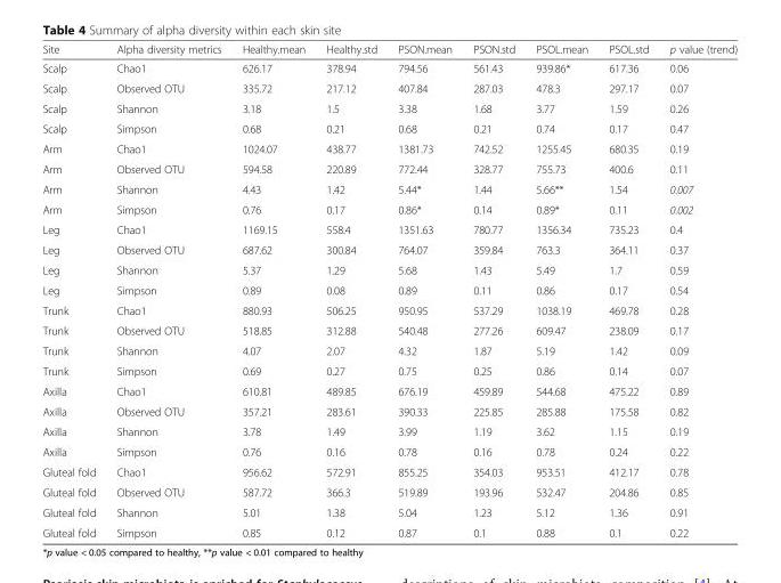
<table><thead><tr><td>Site</td><td>Alpha diversity metrics</td><td>Healthy.mean</td><td>Healthy.std</td><td>PSON.mean</td><td>PSON.std</td><td>PSOL.mean</td><td>PSOL.std</td><td>p value (trend)</td></tr></thead><tbody><tr><td>Scalp</td><td>Chao1</td><td>626.17</td><td>378.94</td><td>794.56</td><td>561.43</td><td>939.86*</td><td>617.36</td><td>0.06</td></tr><tr><td>Scalp</td><td>Observed OTU</td><td>335.72</td><td>217.12</td><td>407.84</td><td>287.03</td><td>478.3</td><td>297.17</td><td>0.07</td></tr><tr><td>Scalp</td><td>Shannon</td><td>3.18</td><td>1.5</td><td>3.38</td><td>1.68</td><td>3.77</td><td>1.59</td><td>0.26</td></tr><tr><td>Scalp</td><td>Simpson</td><td>0.68</td><td>0.21</td><td>0.68</td><td>0.21</td><td>0.74</td><td>0.17</td><td>0.47</td></tr><tr><td>Arm</td><td>Chao1</td><td>1024.07</td><td>438.77</td><td>1381.73</td><td>742.52</td><td>1255.45</td><td>680.35</td><td>0.19</td></tr><tr><td>Arm</td><td>Observed OTU</td><td>594.58</td><td>220.89</td><td>772.44</td><td>328.77</td><td>755.73</td><td>400.6</td><td>0.11</td></tr><tr><td>Arm</td><td>Shannon</td><td>4.43</td><td>1.42</td><td>5.44*</td><td>1.44</td><td>5.66**</td><td>1.54</td><td>0.007</td></tr><tr><td>Arm</td><td>Simpson</td><td>0.76</td><td>0.17</td><td>0.86*</td><td>0.14</td><td>0.89*</td><td>0.11</td><td>0.002</td></tr><tr><td>Leg</td><td>Chao1</td><td>1169.15</td><td>558.4</td><td>1351.63</td><td>780.77</td><td>1356.34</td><td>735.23</td><td>0.4</td></tr><tr><td>Leg</td><td>Observed OTU</td><td>687.62</td><td>300.84</td><td>764.07</td><td>359.84</td><td>763.3</td><td>364.11</td><td>0.37</td></tr><tr><td>Leg</td><td>Shannon</td><td>5.37</td><td>1.29</td><td>5.68</td><td>1.43</td><td>5.49</td><td>1.7</td><td>0.59</td></tr><tr><td>Leg</td><td>Simpson</td><td>0.89</td><td>0.08</td><td>0.89</td><td>0.11</td><td>0.86</td><td>0.17</td><td>0.54</td></tr><tr><td>Trunk</td><td>Chao1</td><td>880.93</td><td>506.25</td><td>950.95</td><td>537.29</td><td>1038.19</td><td>469.78</td><td>0.28</td></tr><tr><td>Trunk</td><td>Observed OTU</td><td>518.85</td><td>312.88</td><td>540.48</td><td>277.26</td><td>609.47</td><td>238.09</td><td>0.17</td></tr><tr><td>Trunk</td><td>Shannon</td><td>4.07</td><td>2.07</td><td>4.32</td><td>1.87</td><td>5.19</td><td>1.42</td><td>0.09</td></tr><tr><td>Trunk</td><td>Simpson</td><td>0.69</td><td>0.27</td><td>0.75</td><td>0.25</td><td>0.86</td><td>0.14</td><td>0.07</td></tr><tr><td>Axilla</td><td>Chao1</td><td>610.81</td><td>489.85</td><td>676.19</td><td>459.89</td><td>544.68</td><td>475.22</td><td>0.89</td></tr><tr><td>Axilla</td><td>Observed OTU</td><td>357.21</td><td>283.61</td><td>390.33</td><td>225.85</td><td>285.88</td><td>175.58</td><td>0.82</td></tr><tr><td>Axilla</td><td>Shannon</td><td>3.78</td><td>1.49</td><td>3.99</td><td>1.19</td><td>3.62</td><td>1.15</td><td>0.19</td></tr><tr><td>Axilla</td><td>Simpson</td><td>0.76</td><td>0.16</td><td>0.78</td><td>0.16</td><td>0.78</td><td>0.24</td><td>0.22</td></tr><tr><td>Gluteal fold</td><td>Chao1</td><td>956.62</td><td>572.91</td><td>855.25</td><td>354.03</td><td>953.51</td><td>412.17</td><td>0.78</td></tr><tr><td>Gluteal fold</td><td>Observed OTU</td><td>587.72</td><td>366.3</td><td>519.89</td><td>193.96</td><td>532.47</td><td>204.86</td><td>0.85</td></tr><tr><td>Gluteal fold</td><td>Shannon</td><td>5.01</td><td>1.38</td><td>5.04</td><td>1.23</td><td>5.12</td><td>1.36</td><td>0.91</td></tr><tr><td>Gluteal fold</td><td>Simpson</td><td>0.85</td><td>0.12</td><td>0.87</td><td>0.1</td><td>0.88</td><td>0.1</td><td>0.22</td></tr></tbody></table>